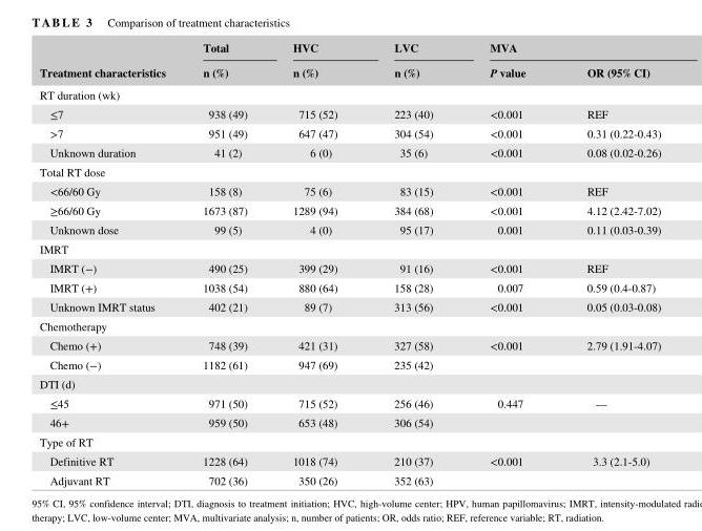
<table><thead><tr><td rowspan="2">Treatment characteristics</td><td rowspan="2">Total n (%)</td><td rowspan="2">HVC n (%)</td><td rowspan="2">LVC n (%)</td><td colspan="2">MVA</td></tr><tr><td>P value</td><td>OR (95% CI)</td></tr></thead><tbody><tr><td colspan="6">RT duration (wk)</td></tr><tr><td>≤7</td><td>938 (49)</td><td>715 (52)</td><td>223 (40)</td><td>&lt;0.001</td><td>REF</td></tr><tr><td>&gt;7</td><td>951 (49)</td><td>647 (47)</td><td>304 (54)</td><td>&lt;0.001</td><td>0.31 (0.22- 0.43)</td></tr><tr><td>Unknown duration</td><td>41 (2)</td><td>6 (0)</td><td>35 (6)</td><td>&lt;0.001</td><td>0.08 (0.02- 0.26)</td></tr><tr><td colspan="6">Total RT dose</td></tr><tr><td>&lt;66/60 Gy</td><td>158 (8)</td><td>75 (6)</td><td>83 (15)</td><td>&lt;0.001</td><td>REF</td></tr><tr><td>≥66/60 Gy</td><td>1673 (87)</td><td>1289 (94)</td><td>384 (68)</td><td>&lt;0.001</td><td>4.12 (2.42- 7.02)</td></tr><tr><td>Unknown dose</td><td>99 (5)</td><td>4 (0)</td><td>95 (17)</td><td>0.001</td><td>0.11 (0.03- 0.39)</td></tr><tr><td colspan="6">IMRT</td></tr><tr><td>IMRT (−)</td><td>490 (25)</td><td>399 (29)</td><td>91 (16)</td><td>&lt;0.001</td><td>REF</td></tr><tr><td>IMRT (+)</td><td>1038 (54)</td><td>880 (64)</td><td>158 (28)</td><td>0.007</td><td>0.59 (0.4- 0.87)</td></tr><tr><td>Unknown IMRT status</td><td>402 (21)</td><td>89 (7)</td><td>313 (56)</td><td>&lt;0.001</td><td>0.05 (0.03- 0.08)</td></tr><tr><td colspan="6">Chemotherapy</td></tr><tr><td>Chemo (+)</td><td>748 (39)</td><td>421 (31)</td><td>327 (58)</td><td>&lt;0.001</td><td>2.79 (1.91- 4.07)</td></tr><tr><td>Chemo (−)</td><td>1182 (61)</td><td>947 (69)</td><td>235 (42)</td><td></td><td></td></tr><tr><td colspan="6">DTI (d)</td></tr><tr><td>≤45</td><td>971 (50)</td><td>715 (52)</td><td>256 (46)</td><td>0.447</td><td>—</td></tr><tr><td>46+</td><td>959 (50)</td><td>653 (48)</td><td>306 (54)</td><td></td><td></td></tr><tr><td colspan="6">Type of RT</td></tr><tr><td>Definitive RT</td><td>1228 (64)</td><td>1018 (74)</td><td>210 (37)</td><td>&lt;0.001</td><td>3.3 (2.1- 5.0)</td></tr><tr><td>Adjuvant RT</td><td>702 (36)</td><td>350 (26)</td><td>352 (63)</td><td></td><td></td></tr></tbody></table>